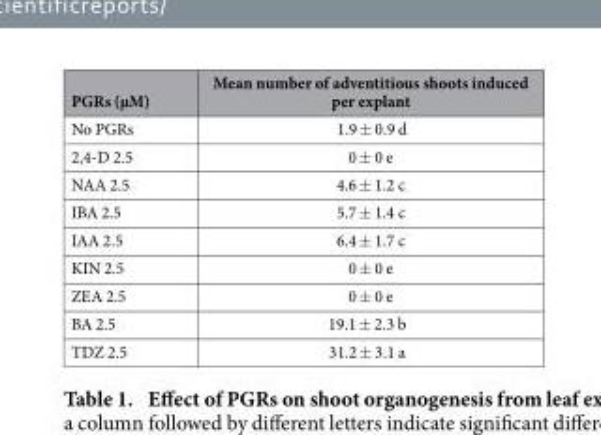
<table><thead><tr><td>PGRs (μM)</td><td>Mean number of adventitious shoots induced per explant</td></tr></thead><tbody><tr><td>No PGRs</td><td>1.9 ± 0.9 d</td></tr><tr><td>2,4-D 2.5</td><td>0 ± 0 e</td></tr><tr><td>NAA 2.5</td><td>4.6 ± 1.2 c</td></tr><tr><td>IBA 2.5</td><td>5.7 ± 1.4 c</td></tr><tr><td>IAA 2.5</td><td>6.4 ± 1.7 c</td></tr><tr><td>KIN 2.5</td><td>0 ± 0 e</td></tr><tr><td>ZEA 2.5</td><td>0 ± 0 e</td></tr><tr><td>BA 2.5</td><td>19.1 ± 2.3 b</td></tr><tr><td>TDZ 2.5</td><td>31.2 ± 3.1 a</td></tr></tbody></table>